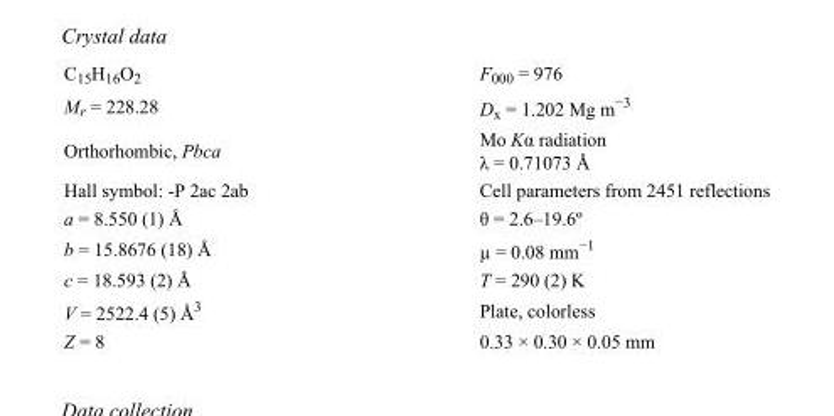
<table><tbody><tr><td>C<sub>15</sub>H<sub>16</sub>O<sub>2</sub></td><td>F000 = 976</td></tr><tr><td>M<sub>r</sub> = 228.28</td><td>D<sub>x</sub> = 1.202 Mg m<sup>−3</sup></td></tr><tr><td>Orthorhombic, Pbca</td><td>Mo Kα radiation λ = 0.71073 Å</td></tr><tr><td>Hall symbol: -P 2ac 2ab</td><td>Cell parameters from 2451 reflections</td></tr><tr><td>a = 8.550 (1) Å</td><td>θ = 2.6–19.6º</td></tr><tr><td>b = 15.8676 (18) Å</td><td>µ = 0.08 mm<sup>−1</sup></td></tr><tr><td>c = 18.593 (2) Å</td><td>T = 290 (2) K</td></tr><tr><td>V = 2522.4 (5) Å<sup>3</sup></td><td>Plate, colorless</td></tr><tr><td>Z = 8</td><td>0.33 × 0.30 × 0.05 mm</td></tr></tbody></table>